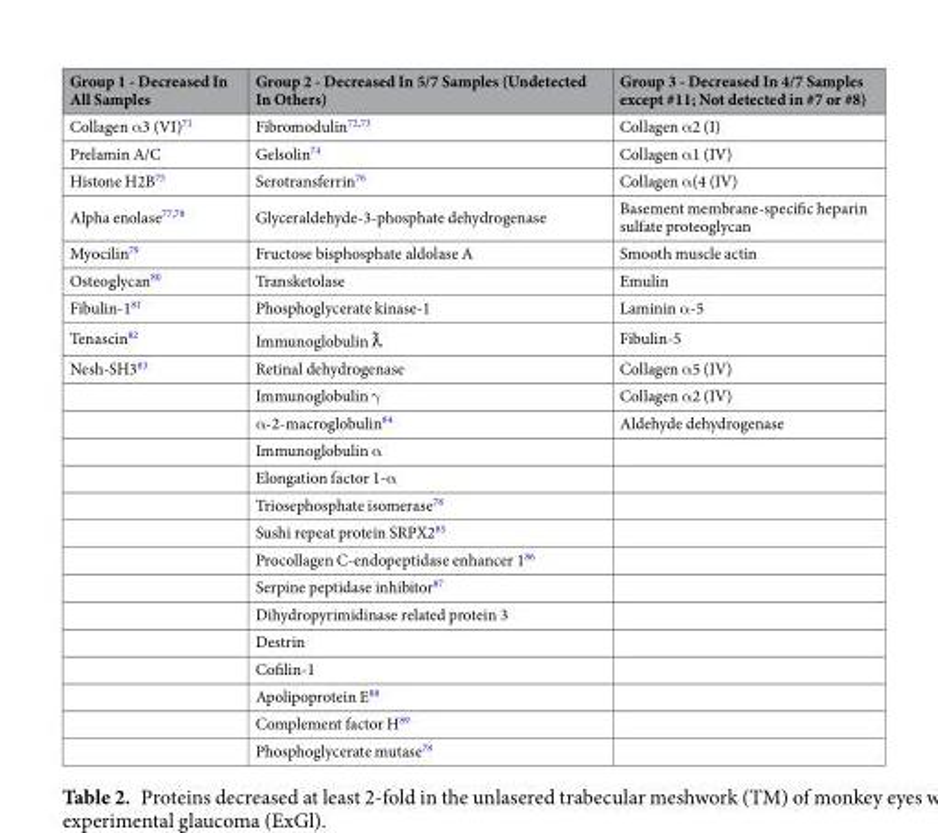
<table><thead><tr><td>Group 1 - Decreased In All Samples</td><td>Group 2 - Decreased In 5/7 Samples (Undetected In Others)</td><td>Group 3 - Decreased In 4/7 Samples except #11; Not detected in #7 or #8)</td></tr></thead><tbody><tr><td>Collagen α3 (VI)<sup>71</sup></td><td>Fibromodulin<sup>72,73</sup></td><td>Collagen α2 (I)</td></tr><tr><td>Prelamin A/C</td><td>Gelsolin<sup>74</sup></td><td>Collagen α1 (IV)</td></tr><tr><td>Histone H2B<sup>75</sup></td><td>Serotransferrin<sup>76</sup></td><td>Collagen α(4 (IV)</td></tr><tr><td>Alpha enolase<sup>77,78</sup></td><td>Glyceraldehyde-3-phosphate dehydrogenase</td><td>Basement membrane-specific heparin sulfate proteoglycan</td></tr><tr><td>Myocilin<sup>79</sup></td><td>Fructose bisphosphate aldolase A</td><td>Smooth muscle actin</td></tr><tr><td>Osteoglycan<sup>80</sup></td><td>Transketolase</td><td>Emulin</td></tr><tr><td>Fibulin-1<sup>81</sup></td><td>Phosphoglycerate kinase-1</td><td>Laminin α-5</td></tr><tr><td>Tenascin<sup>82</sup></td><td>Immunoglobulin ƛ</td><td>Fibulin-5</td></tr><tr><td rowspan="15">Nesh-SH3<sup>83</sup></td><td>Retinal dehydrogenase</td><td>Collagen α5 (IV)</td></tr><tr><td>Immunoglobulin γ</td><td>Collagen α2 (IV)</td></tr><tr><td>α-2-macroglobulin<sup>84</sup></td><td>Aldehyde dehydrogenase</td></tr><tr><td>Immunoglobulin α</td><td></td></tr><tr><td>Elongation factor 1-α</td><td></td></tr><tr><td>Triosephosphate isomerase<sup>78</sup></td><td></td></tr><tr><td>Sushi repeat protein SRPX2<sup>85</sup></td><td></td></tr><tr><td>Procollagen C-endopeptidase enhancer 1<sup>86</sup></td><td></td></tr><tr><td>Serpine peptidase inhibitor<sup>87</sup></td><td></td></tr><tr><td>Dihydropyrimidinase related protein 3</td><td></td></tr><tr><td>Destrin</td><td></td></tr><tr><td>Cofilin-1</td><td></td></tr><tr><td>Apolipoprotein E<sup>88</sup></td><td></td></tr><tr><td>Complement factor H<sup>89</sup></td><td></td></tr><tr><td>Phosphoglycerate mutase<sup>78</sup></td><td></td></tr></tbody></table>